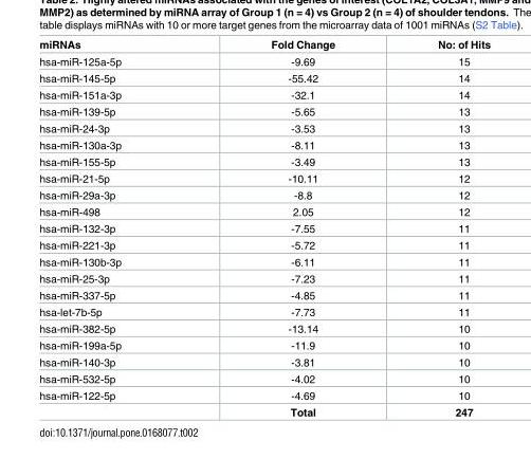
<table><thead><tr><td>miRNAs</td><td>Fold Change</td><td>No: of Hits</td></tr></thead><tbody><tr><td>hsa-miR-125a-5p</td><td>-9.69</td><td>15</td></tr><tr><td>hsa-miR-145-5p</td><td>-55.42</td><td>14</td></tr><tr><td>hsa-miR-151a-3p</td><td>-32.1</td><td>14</td></tr><tr><td>hsa-miR-139-5p</td><td>-5.65</td><td>13</td></tr><tr><td>hsa-miR-24-3p</td><td>-3.53</td><td>13</td></tr><tr><td>hsa-miR-130a-3p</td><td>-8.11</td><td>13</td></tr><tr><td>hsa-miR-155-5p</td><td>-3.49</td><td>13</td></tr><tr><td>hsa-miR-21-5p</td><td>-10.11</td><td>12</td></tr><tr><td>hsa-miR-29a-3p</td><td>-8.8</td><td>12</td></tr><tr><td>hsa-miR-498</td><td>2.05</td><td>12</td></tr><tr><td>hsa-miR-132-3p</td><td>-7.55</td><td>11</td></tr><tr><td>hsa-miR-221-3p</td><td>-5.72</td><td>11</td></tr><tr><td>hsa-miR-130b-3p</td><td>-6.11</td><td>11</td></tr><tr><td>hsa-miR-25-3p</td><td>-7.23</td><td>11</td></tr><tr><td>hsa-miR-337-5p</td><td>-4.85</td><td>11</td></tr><tr><td>hsa-let-7b-5p</td><td>-7.73</td><td>11</td></tr><tr><td>hsa-miR-382-5p</td><td>-13.14</td><td>10</td></tr><tr><td>hsa-miR-199a-5p</td><td>-11.9</td><td>10</td></tr><tr><td>hsa-miR-140-3p</td><td>-3.81</td><td>10</td></tr><tr><td>hsa-miR-532-5p</td><td>-4.02</td><td>10</td></tr><tr><td rowspan="2">hsa-miR-122-5p</td><td>-4.69</td><td>10</td></tr><tr><td>Total</td><td>247</td></tr></tbody></table>